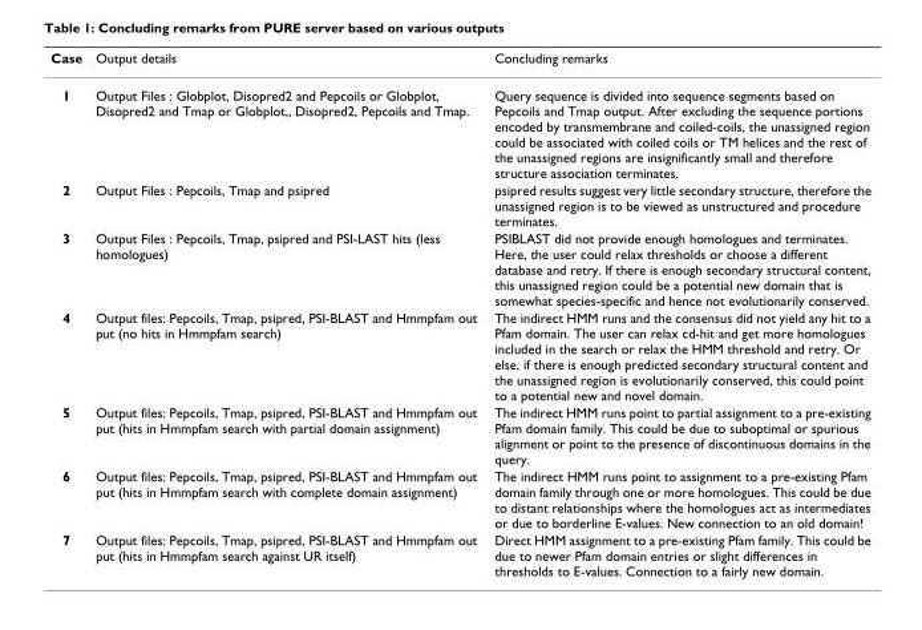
<table><thead><tr><td>Case</td><td>Output details</td><td>Concluding remarks</td></tr></thead><tbody><tr><td>1</td><td>Output Files : Globplot, Disopred2 and Pepcoils or Globplot, Disopred2 and Tmap or Globplot,, Disopred2, Pepcoils and Tmap.</td><td>Query sequence is divided into sequence segments based on Pepcoils and Tmap output. After excluding the sequence portions encoded by transmembrane and coiled-coils, the unassigned region could be associated with coiled coils or TM helices and the rest of the unassigned regions are insignificantly small and therefore structure association terminates.</td></tr><tr><td>2</td><td>Output Files : Pepcoils, Tmap and psipred</td><td>psipred results suggest very little secondary structure, therefore the unassigned region is to be viewed as unstructured and procedure terminates.</td></tr><tr><td>3</td><td>Output Files : Pepcoils, Tmap, psipred and PSI-LAST hits (less homologues)</td><td>PSIBLAST did not provide enough homologues and terminates. Here, the user could relax thresholds or choose a different database and retry. If there is enough secondary structural content, this unassigned region could be a potential new domain that is somewhat species-specific and hence not evolutionarily conserved.</td></tr><tr><td>4</td><td>Output files: Pepcoils, Tmap, psipred, PSI-BLAST and Hmmpfam out put (no hits in Hmmpfam search)</td><td>The indirect HMM runs and the consensus did not yield any hit to a Pfam domain. The user can relax cd-hit and get more homologues included in the search or relax the HMM threshold and retry. Or else, if there is enough predicted secondary structural content and the unassigned region is evolutionarily conserved, this could point to a potential new and novel domain.</td></tr><tr><td>5</td><td>Output files: Pepcoils, Tmap, psipred, PSI-BLAST and Hmmpfam out put (hits in Hmmpfam search with partial domain assignment)</td><td>The indirect HMM runs point to partial assignment to a pre-existing Pfam domain family. This could be due to suboptimal or spurious alignment or point to the presence of discontinuous domains in the query.</td></tr><tr><td>6</td><td>Output files: Pepcoils, Tmap, psipred, PSI-BLAST and Hmmpfam out put (hits in Hmmpfam search with complete domain assignment)</td><td>The indirect HMM runs point to assignment to a pre-existing Pfam domain family through one or more homologues. This could be due to distant relationships where the homologues act as intermediates or due to borderline E-values. New connection to an old domain!</td></tr><tr><td>7</td><td>Output files: Pepcoils, Tmap, psipred, PSI-BLAST and Hmmpfam out put (hits in Hmmpfam search against UR itself)</td><td>Direct HMM assignment to a pre-existing Pfam family. This could be due to newer Pfam domain entries or slight differences in thresholds to E-values. Connection to a fairly new domain.</td></tr></tbody></table>